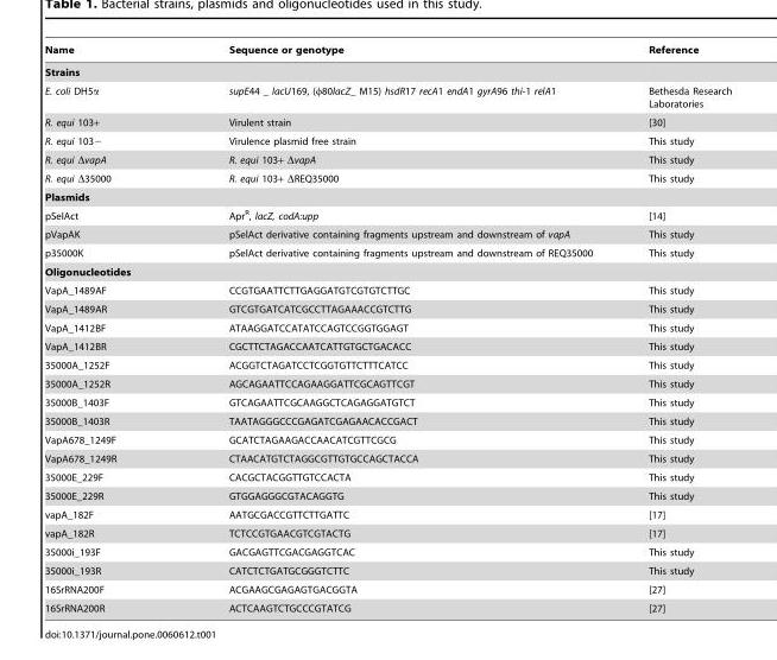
<table><thead><tr><td>Name</td><td>Sequence or genotype</td><td>Reference</td></tr></thead><tbody><tr><td colspan="3">Strains</td></tr><tr><td>E. coli DH5α</td><td>supE44 _ lacU169, (φ80lacZ_ M15) hsdR17 recA1 endA1 gyrA96 thi-1 relA1</td><td>Bethesda Research Laboratories</td></tr><tr><td>R. equi 103+</td><td>Virulent strain</td><td>[30]</td></tr><tr><td>R. equi 103−</td><td>Virulence plasmid free strain</td><td>This study</td></tr><tr><td>R. equi ΔvapA</td><td>R. equi 103+ ΔvapA</td><td>This study</td></tr><tr><td>R. equi Δ35000</td><td>R. equi 103+ ΔREQ35000</td><td>This study</td></tr><tr><td colspan="3">Plasmids</td></tr><tr><td>pSelAct</td><td>Apr<sup>R</sup>, lacZ, codA:upp</td><td>[14]</td></tr><tr><td>pVapAK</td><td>pSelAct derivative containing fragments upstream and downstream of vapA</td><td>This study</td></tr><tr><td>p35000K</td><td>pSelAct derivative containing fragments upstream and downstream of REQ35000</td><td>This study</td></tr><tr><td colspan="3">Oligonucleotides</td></tr><tr><td>VapA_1489AF</td><td>CCGTGAATTCTTGAGGATGTCGTGTCTTGC</td><td>This study</td></tr><tr><td>VapA_1489AR</td><td>GTCGTGATCATCGCCTTAGAAACCGTCTTG</td><td>This study</td></tr><tr><td>VapA_1412BF</td><td>ATAAGGATCCATATCCAGTCCGGTGGAGT</td><td>This study</td></tr><tr><td>VapA_1412BR</td><td>CGCTTCTAGACCAATCATTGTGCTGACACC</td><td>This study</td></tr><tr><td>35000A_1252F</td><td>ACGGTCTAGATCCTCGGTGTTCTTTCATCC</td><td>This study</td></tr><tr><td>35000A_1252R</td><td>AGCAGAATTCCAGAAGGATTCGCAGTTCGT</td><td>This study</td></tr><tr><td>35000B_1403F</td><td>GTCAGAATTCGCAAGGCTCAGAGGATGTCT</td><td>This study</td></tr><tr><td>35000B_1403R</td><td>TAATAGGGCCCGAGATCGAGAACACCGACT</td><td>This study</td></tr><tr><td>VapA678_1249F</td><td>GCATCTAGAAGACCAACATCGTTCGCG</td><td>This study</td></tr><tr><td>VapA678_1249R</td><td>CTAACATGTCTAGGCGTTGTGCCAGCTACCA</td><td>This study</td></tr><tr><td>35000E_229F</td><td>CACGCTACGGTTGTCCACTA</td><td>This study</td></tr><tr><td>35000E_229R</td><td>GTGGAGGGCGTACAGGTG</td><td>This study</td></tr><tr><td>vapA_182F</td><td>AATGCGACCGTTCTTGATTC</td><td>[17]</td></tr><tr><td>vapA_182R</td><td>TCTCCGTGAACGTCGTACTG</td><td>[17]</td></tr><tr><td>35000i_193F</td><td>GACGAGTTCGACGAGGTCAC</td><td>This study</td></tr><tr><td>35000i_193R</td><td>CATCTCTGATGCGGGTCTTC</td><td>This study</td></tr><tr><td>16SrRNA200F</td><td>ACGAAGCGAGAGTGACGGTA</td><td>[27]</td></tr><tr><td>16SrRNA200R</td><td>ACTCAAGTCTGCCCGTATCG</td><td>[27]</td></tr></tbody></table>